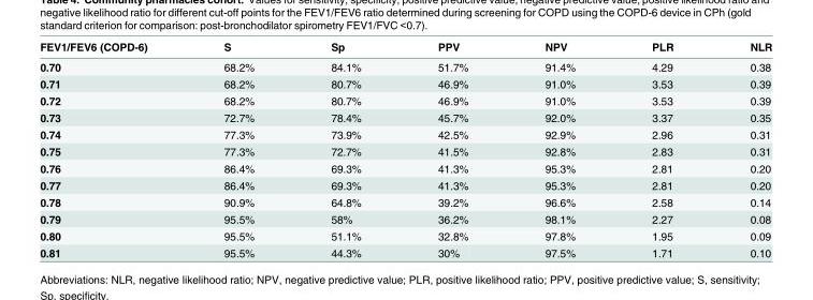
<table><thead><tr><td>FEV1/FEV6 (COPD-6)</td><td>S</td><td>Sp</td><td>PPV</td><td>NPV</td><td>PLR</td><td>NLR</td></tr></thead><tbody><tr><td>0.70</td><td>68.2%</td><td>84.1%</td><td>51.7%</td><td>91.4%</td><td>4.29</td><td>0.38</td></tr><tr><td>0.71</td><td>68.2%</td><td>80.7%</td><td>46.9%</td><td>91.0%</td><td>3.53</td><td>0.39</td></tr><tr><td>0.72</td><td>68.2%</td><td>80.7%</td><td>46.9%</td><td>91.0%</td><td>3.53</td><td>0.39</td></tr><tr><td>0.73</td><td>72.7%</td><td>78.4%</td><td>45.7%</td><td>92.0%</td><td>3.37</td><td>0.35</td></tr><tr><td>0.74</td><td>77.3%</td><td>73.9%</td><td>42.5%</td><td>92.9%</td><td>2.96</td><td>0.31</td></tr><tr><td>0.75</td><td>77.3%</td><td>72.7%</td><td>41.5%</td><td>92.8%</td><td>2.83</td><td>0.31</td></tr><tr><td>0.76</td><td>86.4%</td><td>69.3%</td><td>41.3%</td><td>95.3%</td><td>2.81</td><td>0.20</td></tr><tr><td>0.77</td><td>86.4%</td><td>69.3%</td><td>41.3%</td><td>95.3%</td><td>2.81</td><td>0.20</td></tr><tr><td>0.78</td><td>90.9%</td><td>64.8%</td><td>39.2%</td><td>96.6%</td><td>2.58</td><td>0.14</td></tr><tr><td>0.79</td><td>95.5%</td><td>58%</td><td>36.2%</td><td>98.1%</td><td>2.27</td><td>0.08</td></tr><tr><td>0.80</td><td>95.5%</td><td>51.1%</td><td>32.8%</td><td>97.8%</td><td>1.95</td><td>0.09</td></tr><tr><td>0.81</td><td>95.5%</td><td>44.3%</td><td>30%</td><td>97.5%</td><td>1.71</td><td>0.10</td></tr></tbody></table>